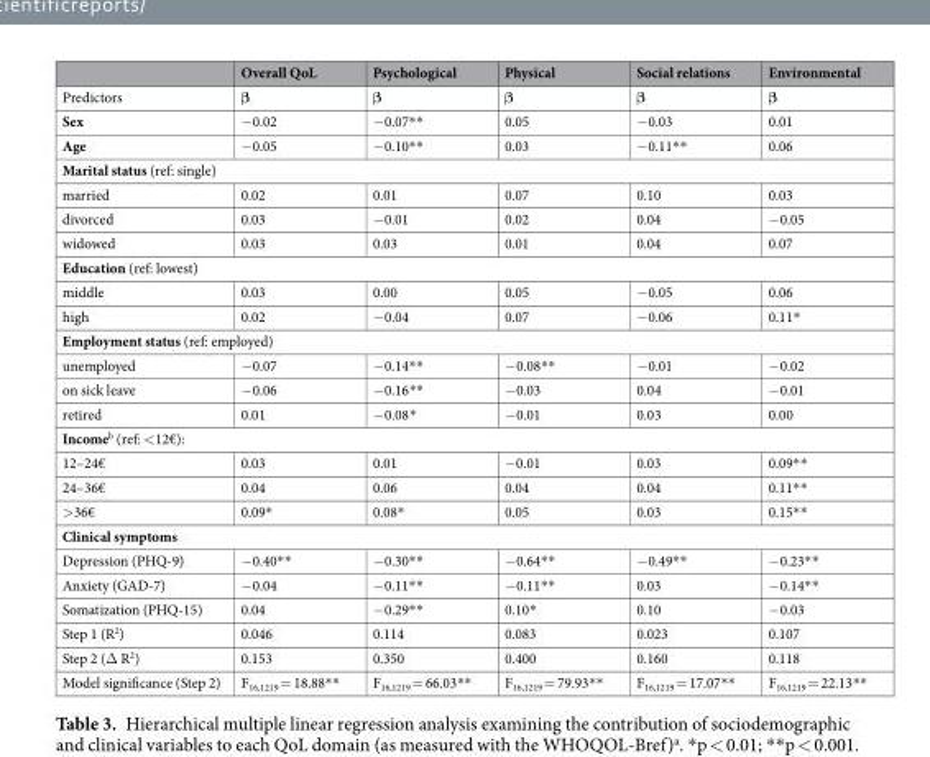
<table><thead><tr><td></td><td>Overall QoL</td><td>Psychological</td><td>Physical</td><td>Social relations</td><td>Environmental</td></tr></thead><tbody><tr><td>Predictors</td><td>β</td><td>β</td><td>β</td><td>β</td><td>β</td></tr><tr><td>Sex</td><td>−0.02</td><td>−0.07**</td><td>0.05</td><td>−0.03</td><td>0.01</td></tr><tr><td>Age</td><td>−0.05</td><td>−0.10**</td><td>0.03</td><td>−0.11**</td><td>0.06</td></tr><tr><td colspan="6">Marital status (ref: single)</td></tr><tr><td>married</td><td>0.02</td><td>0.01</td><td>0.07</td><td>0.10</td><td>0.03</td></tr><tr><td>divorced</td><td>0.03</td><td>−0.01</td><td>0.02</td><td>0.04</td><td>−0.05</td></tr><tr><td>widowed</td><td>0.03</td><td>0.03</td><td>0.01</td><td>0.04</td><td>0.07</td></tr><tr><td colspan="6">Education (ref: lowest)</td></tr><tr><td>middle</td><td>0.03</td><td>0.00</td><td>0.05</td><td>−0.05</td><td>0.06</td></tr><tr><td>high</td><td>0.02</td><td>−0.04</td><td>0.07</td><td>−0.06</td><td>0.11*</td></tr><tr><td colspan="6">Employment status (ref: employed)</td></tr><tr><td>unemployed</td><td>−0.07</td><td>−0.14**</td><td>−0.08**</td><td>−0.01</td><td>−0.02</td></tr><tr><td>on sick leave</td><td>−0.06</td><td>−0.16**</td><td>−0.03</td><td>0.04</td><td>−0.01</td></tr><tr><td>retired</td><td>0.01</td><td>−0.08*</td><td>−0.01</td><td>0.03</td><td>0.00</td></tr><tr><td colspan="6">Income<sup>b</sup> (ref: &lt;12€):</td></tr><tr><td>12–24€</td><td>0.03</td><td>0.01</td><td>−0.01</td><td>0.03</td><td>0.09**</td></tr><tr><td>24–36€</td><td>0.04</td><td>0.06</td><td>0.04</td><td>0.04</td><td>0.11**</td></tr><tr><td>&gt;36€</td><td>0.09*</td><td>0.08*</td><td>0.05</td><td>0.03</td><td>0.15**</td></tr><tr><td colspan="6">Clinical symptoms</td></tr><tr><td>Depression (PHQ-9)</td><td>−0.40**</td><td>−0.30**</td><td>−0.64**</td><td>−0.49**</td><td>−0.23**</td></tr><tr><td>Anxiety (GAD-7)</td><td>−0.04</td><td>−0.11**</td><td>−0.11**</td><td>0.03</td><td>−0.14**</td></tr><tr><td>Somatization (PHQ-15)</td><td>0.04</td><td>−0.29**</td><td>0.10*</td><td>0.10</td><td>−0.03</td></tr><tr><td>Step 1 (R<sup>2</sup>)</td><td>0.046</td><td>0.114</td><td>0.083</td><td>0.023</td><td>0.107</td></tr><tr><td>Step 2 (Δ R<sup>2</sup>)</td><td>0.153</td><td>0.350</td><td>0.400</td><td>0.160</td><td>0.118</td></tr><tr><td>Model significance (Step 2)</td><td>F<sub>16,1219</sub> = 18.88**</td><td>F<sub>16,1219</sub> = 66.03**</td><td>F<sub>16,1219</sub> = 79.93**</td><td>F<sub>16,1219</sub> = 17.07**</td><td>F<sub>16,1219</sub> = 22.13**</td></tr></tbody></table>